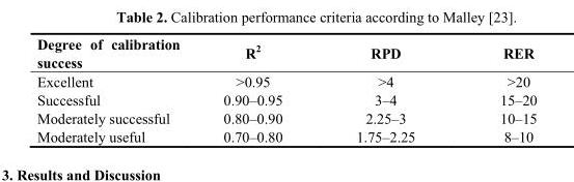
<table><thead><tr><td>Degree of calibration success</td><td>R<sup>2</sup></td><td>RPD</td><td>RER</td></tr></thead><tbody><tr><td>Excellent</td><td>&gt;0.95</td><td>&gt;4</td><td>&gt;20</td></tr><tr><td>Successful</td><td>0.90–0.95</td><td>3–4</td><td>15–20</td></tr><tr><td>Moderately successful</td><td>0.80–0.90</td><td>2.25–3</td><td>10–15</td></tr><tr><td>Moderately useful</td><td>0.70–0.80</td><td>1.75–2.25</td><td>8–10</td></tr></tbody></table>